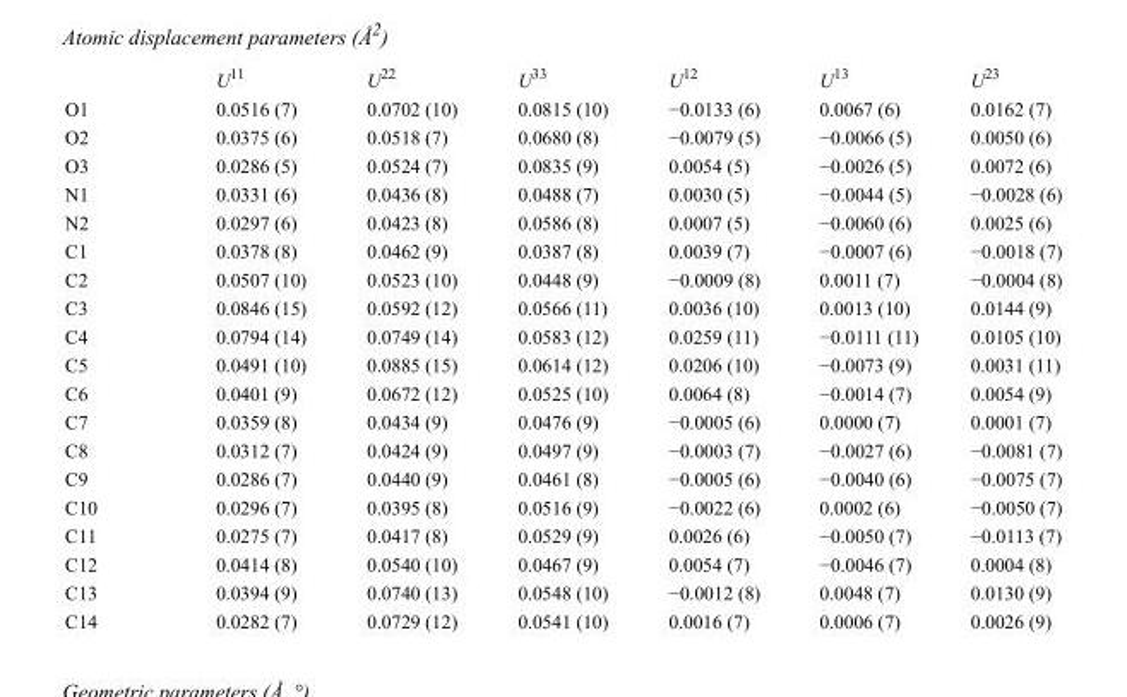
<table><thead><tr><td></td><td>U<sup>11</sup></td><td>U<sup>22</sup></td><td>U<sup>33</sup></td><td>U<sup>12</sup></td><td>U<sup>13</sup></td><td>U<sup>23</sup></td></tr></thead><tbody><tr><td>O1</td><td>0.0516 (7)</td><td>0.0702 (10)</td><td>0.0815 (10)</td><td>−0.0133 (6)</td><td>0.0067 (6)</td><td>0.0162 (7)</td></tr><tr><td>O2</td><td>0.0375 (6)</td><td>0.0518 (7)</td><td>0.0680 (8)</td><td>−0.0079 (5)</td><td>−0.0066 (5)</td><td>0.0050 (6)</td></tr><tr><td>O3</td><td>0.0286 (5)</td><td>0.0524 (7)</td><td>0.0835 (9)</td><td>0.0054 (5)</td><td>−0.0026 (5)</td><td>0.0072 (6)</td></tr><tr><td>N1</td><td>0.0331 (6)</td><td>0.0436 (8)</td><td>0.0488 (7)</td><td>0.0030 (5)</td><td>−0.0044 (5)</td><td>−0.0028 (6)</td></tr><tr><td>N2</td><td>0.0297 (6)</td><td>0.0423 (8)</td><td>0.0586 (8)</td><td>0.0007 (5)</td><td>−0.0060 (6)</td><td>0.0025 (6)</td></tr><tr><td>C1</td><td>0.0378 (8)</td><td>0.0462 (9)</td><td>0.0387 (8)</td><td>0.0039 (7)</td><td>−0.0007 (6)</td><td>−0.0018 (7)</td></tr><tr><td>C2</td><td>0.0507 (10)</td><td>0.0523 (10)</td><td>0.0448 (9)</td><td>−0.0009 (8)</td><td>0.0011 (7)</td><td>−0.0004 (8)</td></tr><tr><td>C3</td><td>0.0846 (15)</td><td>0.0592 (12)</td><td>0.0566 (11)</td><td>0.0036 (10)</td><td>0.0013 (10)</td><td>0.0144 (9)</td></tr><tr><td>C4</td><td>0.0794 (14)</td><td>0.0749 (14)</td><td>0.0583 (12)</td><td>0.0259 (11)</td><td>−0.0111 (11)</td><td>0.0105 (10)</td></tr><tr><td>C5</td><td>0.0491 (10)</td><td>0.0885 (15)</td><td>0.0614 (12)</td><td>0.0206 (10)</td><td>−0.0073 (9)</td><td>0.0031 (11)</td></tr><tr><td>C6</td><td>0.0401 (9)</td><td>0.0672 (12)</td><td>0.0525 (10)</td><td>0.0064 (8)</td><td>−0.0014 (7)</td><td>0.0054 (9)</td></tr><tr><td>C7</td><td>0.0359 (8)</td><td>0.0434 (9)</td><td>0.0476 (9)</td><td>−0.0005 (6)</td><td>0.0000 (7)</td><td>0.0001 (7)</td></tr><tr><td>C8</td><td>0.0312 (7)</td><td>0.0424 (9)</td><td>0.0497 (9)</td><td>−0.0003 (7)</td><td>−0.0027 (6)</td><td>−0.0081 (7)</td></tr><tr><td>C9</td><td>0.0286 (7)</td><td>0.0440 (9)</td><td>0.0461 (8)</td><td>−0.0005 (6)</td><td>−0.0040 (6)</td><td>−0.0075 (7)</td></tr><tr><td>C10</td><td>0.0296 (7)</td><td>0.0395 (8)</td><td>0.0516 (9)</td><td>−0.0022 (6)</td><td>0.0002 (6)</td><td>−0.0050 (7)</td></tr><tr><td>C11</td><td>0.0275 (7)</td><td>0.0417 (8)</td><td>0.0529 (9)</td><td>0.0026 (6)</td><td>−0.0050 (7)</td><td>−0.0113 (7)</td></tr><tr><td>C12</td><td>0.0414 (8)</td><td>0.0540 (10)</td><td>0.0467 (9)</td><td>0.0054 (7)</td><td>−0.0046 (7)</td><td>0.0004 (8)</td></tr><tr><td>C13</td><td>0.0394 (9)</td><td>0.0740 (13)</td><td>0.0548 (10)</td><td>−0.0012 (8)</td><td>0.0048 (7)</td><td>0.0130 (9)</td></tr><tr><td>C14</td><td>0.0282 (7)</td><td>0.0729 (12)</td><td>0.0541 (10)</td><td>0.0016 (7)</td><td>0.0006 (7)</td><td>0.0026 (9)</td></tr></tbody></table>